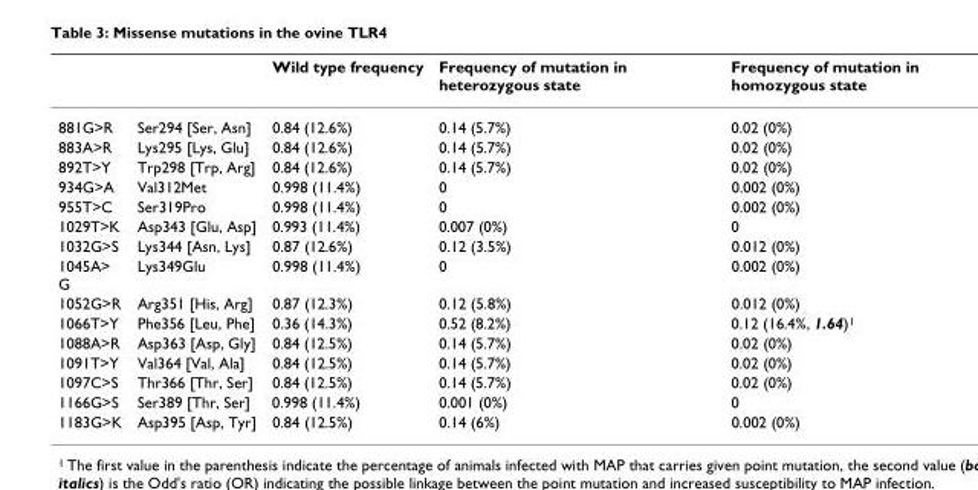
<table><thead><tr><td></td><td></td><td>Wild type frequency</td><td>Frequency of mutation in heterozygous state</td><td>Frequency of mutation in homozygous state</td></tr></thead><tbody><tr><td>881G&gt;R</td><td>Ser294 [Ser, Asn]</td><td>0.84 (12.6%)</td><td>0.14 (5.7%)</td><td>0.02 (0%)</td></tr><tr><td>883A&gt;R</td><td>Lys295 [Lys, Glu]</td><td>0.84 (12.6%)</td><td>0.14 (5.7%)</td><td>0.02 (0%)</td></tr><tr><td>892T&gt;Y</td><td>Trp298 [Trp, Arg]</td><td>0.84 (12.6%)</td><td>0.14 (5.7%)</td><td>0.02 (0%)</td></tr><tr><td>934G&gt;A</td><td>Val312Met</td><td>0.998 (11.4%)</td><td>0</td><td>0.002 (0%)</td></tr><tr><td>955T&gt;C</td><td>Ser319Pro</td><td>0.998 (11.4%)</td><td>0</td><td>0.002 (0%)</td></tr><tr><td>1029T&gt;K</td><td>Asp343 [Glu, Asp]</td><td>0.993 (11.4%)</td><td>0.007 (0%)</td><td>0</td></tr><tr><td>1032G&gt;S</td><td>Lys344 [Asn, Lys]</td><td>0.87 (12.6%)</td><td>0.12 (3.5%)</td><td>0.012 (0%)</td></tr><tr><td>1045A&gt; G</td><td>Lys349Glu</td><td>0.998 (11.4%)</td><td>0</td><td>0.002 (0%)</td></tr><tr><td>1052G&gt;R</td><td>Arg351 [His, Arg]</td><td>0.87 (12.3%)</td><td>0.12 (5.8%)</td><td>0.012 (0%)</td></tr><tr><td>1066T&gt;Y</td><td>Phe356 [Leu, Phe]</td><td>0.36 (14.3%)</td><td>0.52 (8.2%)</td><td>0.12 (16.4%, 1.64)<sup>1</sup></td></tr><tr><td>1088A&gt;R</td><td>Asp363 [Asp, Gly]</td><td>0.84 (12.5%)</td><td>0.14 (5.7%)</td><td>0.02 (0%)</td></tr><tr><td>1091T&gt;Y</td><td>Val364 [Val, Ala]</td><td>0.84 (12.5%)</td><td>0.14 (5.7%)</td><td>0.02 (0%)</td></tr><tr><td>1097C&gt;S</td><td>Thr366 [Thr, Ser]</td><td>0.84 (12.5%)</td><td>0.14 (5.7%)</td><td>0.02 (0%)</td></tr><tr><td>1166G&gt;S</td><td>Ser389 [Thr, Ser]</td><td>0.998 (11.4%)</td><td>0.001 (0%)</td><td>0</td></tr><tr><td>1183G&gt;K</td><td>Asp395 [Asp, Tyr]</td><td>0.84 (12.5%)</td><td>0.14 (6%)</td><td>0.002 (0%)</td></tr></tbody></table>